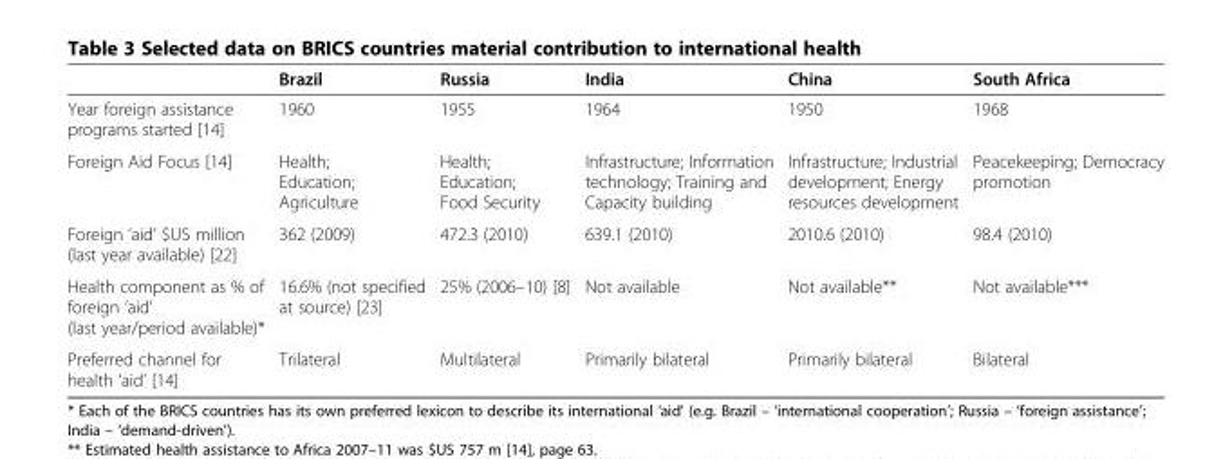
<table><thead><tr><td></td><td>Brazil</td><td>Russia</td><td>India</td><td>China</td><td>South Africa</td></tr></thead><tbody><tr><td>Year foreign assistance programs started [14]</td><td>1960</td><td>1955</td><td>1964</td><td>1950</td><td>1968</td></tr><tr><td>Foreign Aid Focus [14]</td><td>Health; Education; Agriculture</td><td>Health; Education; Food Security</td><td>Infrastructure; Information technology; Training and Capacity building</td><td>Infrastructure; Industrial development; Energy resources development</td><td>Peacekeeping; Democracy promotion</td></tr><tr><td>Foreign ‘aid’ $US million (last year available) [22]</td><td>362 (2009)</td><td>472.3 (2010)</td><td>639.1 (2010)</td><td>2010.6 (2010)</td><td>98.4 (2010)</td></tr><tr><td>Health component as % of foreign ‘aid’ (last year/period available)*</td><td>16.6% (not specified at source) [23]</td><td>25% (2006–10) [8]</td><td>Not available</td><td>Not available**</td><td>Not available***</td></tr><tr><td>Preferred channel for health ‘aid’ [14]</td><td>Trilateral</td><td>Multilateral</td><td>Primarily bilateral</td><td>Primarily bilateral</td><td>Bilateral</td></tr></tbody></table>